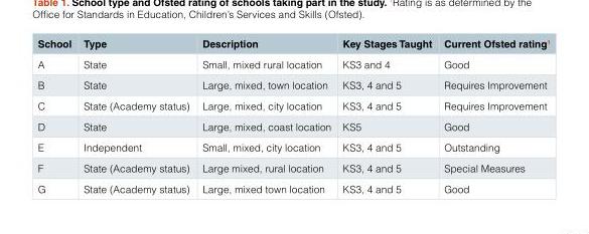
<table><thead><tr><td>School</td><td>Type</td><td>Description</td><td>Key Stages Taught</td><td>Current Ofsted rating<sup>1</sup></td></tr></thead><tbody><tr><td>A</td><td>State</td><td>Small, mixed rural location</td><td>KS3 and 4</td><td>Good</td></tr><tr><td>B</td><td>State</td><td>Large, mixed, town location</td><td>KS3, 4 and 5</td><td>Requires Improvement</td></tr><tr><td>C</td><td>State (Academy status)</td><td>Large, mixed, city location</td><td>KS3, 4 and 5</td><td>Requires Improvement</td></tr><tr><td>D</td><td>State</td><td>Large, mixed, coast location</td><td>KS5</td><td>Good</td></tr><tr><td>E</td><td>Independent</td><td>Small, mixed, city location</td><td>KS3, 4 and 5</td><td>Outstanding</td></tr><tr><td>F</td><td>State (Academy status)</td><td>Large mixed, rural location</td><td>KS3, 4 and 5</td><td>Special Measures</td></tr><tr><td>G</td><td>State (Academy status)</td><td>Large, mixed town location</td><td>KS3, 4 and 5</td><td>Good</td></tr></tbody></table>